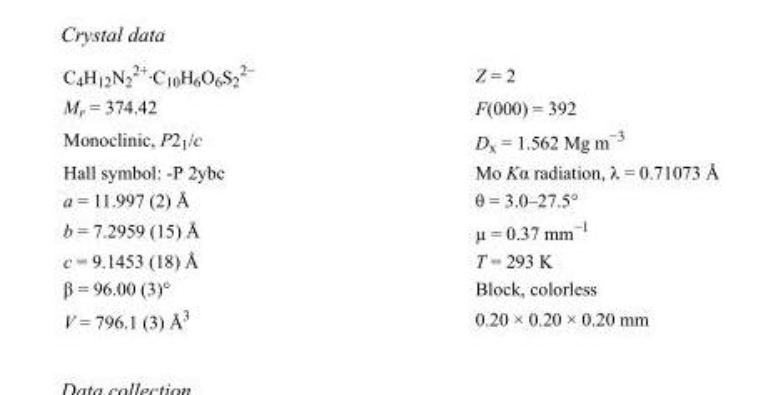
<table><tbody><tr><td>C<sub>4</sub>H<sub>12</sub>N<sub>2</sub> <sup>2+</sup>·C<sub>10</sub>H<sub>6</sub>O<sub>6</sub>S<sub>2</sub> <sup>2−</sup></td><td>Z = 2</td></tr><tr><td>M<sub>r</sub> = 374.42</td><td>F(000) = 392</td></tr><tr><td>Monoclinic, P2<sub>1</sub>/c</td><td>D<sub>x</sub> = 1.562 Mg m<sup>−3</sup></td></tr><tr><td>Hall symbol: -P 2ybc</td><td>Mo Kα radiation, λ = 0.71073 Å</td></tr><tr><td>a = 11.997 (2) Å</td><td>θ = 3.0–27.5°</td></tr><tr><td>b = 7.2959 (15) Å</td><td>µ = 0.37 mm<sup>−1</sup></td></tr><tr><td>c = 9.1453 (18) Å</td><td>T = 293 K</td></tr><tr><td>β = 96.00 (3)°</td><td>Block, colorless</td></tr><tr><td>V = 796.1 (3) Å<sup>3</sup></td><td>0.20 × 0.20 × 0.20 mm</td></tr></tbody></table>